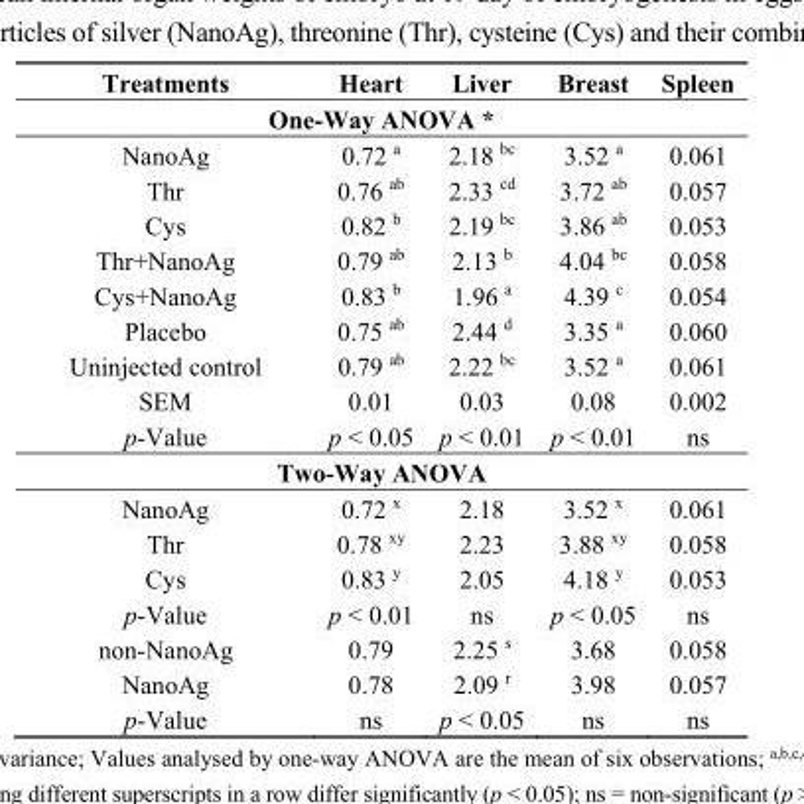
<table><thead><tr><td>Treatments</td><td>Heart</td><td>Liver</td><td>Breast</td><td>Spleen</td></tr></thead><tbody><tr><td colspan="5">One-Way ANOVA *</td></tr><tr><td>NanoAg</td><td>0.72 <sup>a</sup></td><td>2.18 <sup>bc</sup></td><td>3.52 <sup>a</sup></td><td>0.061</td></tr><tr><td>Thr</td><td>0.76 <sup>ab</sup></td><td>2.33 <sup>cd</sup></td><td>3.72 <sup>ab</sup></td><td>0.057</td></tr><tr><td>Cys</td><td>0.82 <sup>b</sup></td><td>2.19 <sup>bc</sup></td><td>3.86 <sup>ab</sup></td><td>0.053</td></tr><tr><td>Thr+NanoAg</td><td>0.79 <sup>ab</sup></td><td>2.13 <sup>b</sup></td><td>4.04 <sup>bc</sup></td><td>0.058</td></tr><tr><td>Cys+NanoAg</td><td>0.83 <sup>b</sup></td><td>1.96 <sup>a</sup></td><td>4.39 <sup>c</sup></td><td>0.054</td></tr><tr><td>Placebo</td><td>0.75 <sup>ab</sup></td><td>2.44 <sup>d</sup></td><td>3.35 <sup>a</sup></td><td>0.060</td></tr><tr><td>Uninjected control</td><td>0.79 <sup>ab</sup></td><td>2.22 <sup>bc</sup></td><td>3.52 <sup>a</sup></td><td>0.061</td></tr><tr><td>SEM</td><td>0.01</td><td>0.03</td><td>0.08</td><td>0.002</td></tr><tr><td>p-Value</td><td>p &lt; 0.05</td><td>p &lt; 0.01</td><td>p &lt; 0.01</td><td>ns</td></tr><tr><td colspan="5">Two-Way ANOVA</td></tr><tr><td>NanoAg</td><td>0.72 <sup>x</sup></td><td>2.18</td><td>3.52 <sup>x</sup></td><td>0.061</td></tr><tr><td>Thr</td><td>0.78 <sup>xy</sup></td><td>2.23</td><td>3.88 <sup>xy</sup></td><td>0.058</td></tr><tr><td>Cys</td><td>0.83 <sup>y</sup></td><td>2.05</td><td>4.18 <sup>y</sup></td><td>0.053</td></tr><tr><td>p-Value</td><td>p &lt; 0.01</td><td>ns</td><td>p &lt; 0.05</td><td>ns</td></tr><tr><td>non-NanoAg</td><td>0.79</td><td>2.25 <sup>s</sup></td><td>3.68</td><td>0.058</td></tr><tr><td>NanoAg</td><td>0.78</td><td>2.09 <sup>r</sup></td><td>3.98</td><td>0.057</td></tr><tr><td>p-Value</td><td>ns</td><td>p &lt; 0.05</td><td>ns</td><td>ns</td></tr></tbody></table>